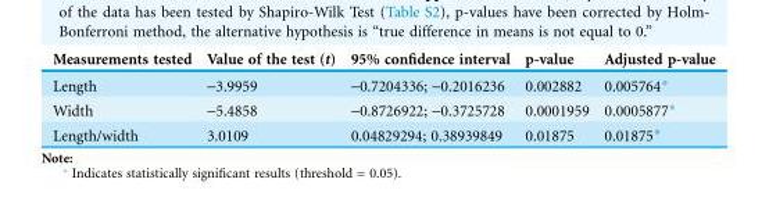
<table><thead><tr><td>Measurements tested</td><td>Value of the test (t)</td><td>95% confidence interval</td><td>p-value</td><td>Adjusted p-value</td></tr></thead><tbody><tr><td>Length</td><td>-3.9959</td><td>-0.7204336; -0.2016236</td><td>0.002882</td><td>0.005764*</td></tr><tr><td>Width</td><td>-5.4858</td><td>-0.8726922; -0.3725728</td><td>0.0001959</td><td>0.0005877*</td></tr><tr><td>Length/width</td><td>3.0109</td><td>0.04829294; 0.38939849</td><td>0.01875</td><td>0.01875*</td></tr></tbody></table>